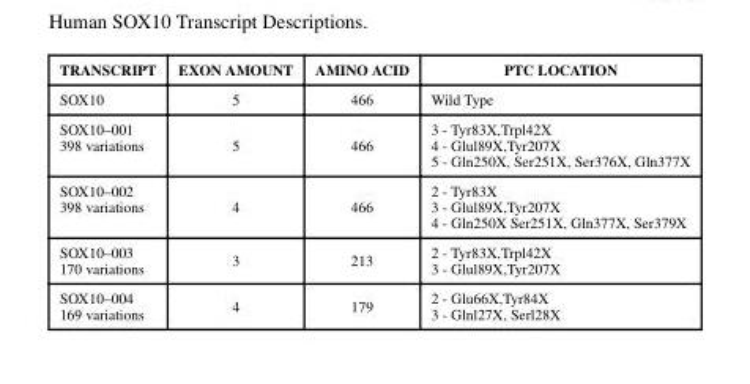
<table><thead><tr><td>TRANSCRIPT</td><td>EXON AMOUNT</td><td>AMINO ACID</td><td>PTC LOCATION</td></tr></thead><tbody><tr><td>SOX10</td><td>5</td><td>466</td><td>Wild Type</td></tr><tr><td>SOX10–001 398 variations</td><td>5</td><td>466</td><td>3 - Tyr83X,Trpl42X 4 - Glul89X,Tyr207X 5 - Gln250X, Ser251X, Ser376X, Gln377X</td></tr><tr><td>SOX10–002 398 variations</td><td>4</td><td>466</td><td>2 - Tyr83X 3 - Glul89X,Tyr207X 4 - Gln250X Ser251X, Gln377X, Ser379X</td></tr><tr><td>SOX10–003 170 variations</td><td>3</td><td>213</td><td>2 - Tyr83X,Trpl42X 3 - Glul89X,Tyr207X</td></tr><tr><td>SOX10–004 169 variations</td><td>4</td><td>179</td><td>2 - Glu66X,Tyr84X 3 - Glnl27X, Serl28X</td></tr></tbody></table>